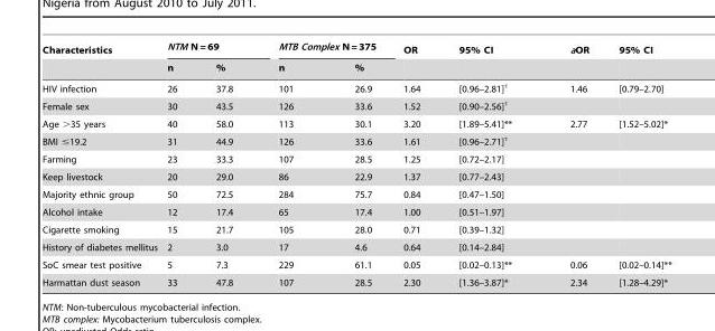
<table><thead><tr><td rowspan="2">Characteristics</td><td colspan="2">NTM N = 69</td><td colspan="2">MTB Complex N = 375</td><td rowspan="2">OR</td><td rowspan="2">95% CI</td><td rowspan="2">aOR</td><td rowspan="2">95% CI</td></tr><tr><td>n</td><td>%</td><td>n</td><td>%</td></tr></thead><tbody><tr><td>HIV infection</td><td>26</td><td>37.8</td><td>101</td><td>26.9</td><td>1.64</td><td>[0.96–2.81]τ</td><td>1.46</td><td>[0.79–2.70]</td></tr><tr><td>Female sex</td><td>30</td><td>43.5</td><td>126</td><td>33.6</td><td>1.52</td><td>[0.90–2.56]τ</td><td></td><td></td></tr><tr><td>Age &gt;35 years</td><td>40</td><td>58.0</td><td>113</td><td>30.1</td><td>3.20</td><td>[1.89–5.41]**</td><td>2.77</td><td>[1.52–5.02]*</td></tr><tr><td>BMI ≤19.2</td><td>31</td><td>44.9</td><td>126</td><td>33.6</td><td>1.61</td><td>[0.96–2.71]τ</td><td></td><td></td></tr><tr><td>Farming</td><td>23</td><td>33.3</td><td>107</td><td>28.5</td><td>1.25</td><td>[0.72–2.17]</td><td></td><td></td></tr><tr><td>Keep livestock</td><td>20</td><td>29.0</td><td>86</td><td>22.9</td><td>1.37</td><td>[0.77–2.43]</td><td></td><td></td></tr><tr><td>Majority ethnic group</td><td>50</td><td>72.5</td><td>284</td><td>75.7</td><td>0.84</td><td>[0.47–1.50]</td><td></td><td></td></tr><tr><td>Alcohol intake</td><td>12</td><td>17.4</td><td>65</td><td>17.4</td><td>1.00</td><td>[0.51–1.97]</td><td></td><td></td></tr><tr><td>Cigarette smoking</td><td>15</td><td>21.7</td><td>105</td><td>28.0</td><td>0.71</td><td>[0.39–1.32]</td><td></td><td></td></tr><tr><td>History of diabetes mellitus</td><td>2</td><td>3.0</td><td>17</td><td>4.6</td><td>0.64</td><td>[0.14–2.84]</td><td></td><td></td></tr><tr><td>SoC smear test positive</td><td>5</td><td>7.3</td><td>229</td><td>61.1</td><td>0.05</td><td>[0.02–0.13]**</td><td>0.06</td><td>[0.02–0.14]**</td></tr><tr><td>Harmattan dust season</td><td>33</td><td>47.8</td><td>107</td><td>28.5</td><td>2.30</td><td>[1.36–3.87]*</td><td>2.34</td><td>[1.28–4.29]*</td></tr></tbody></table>